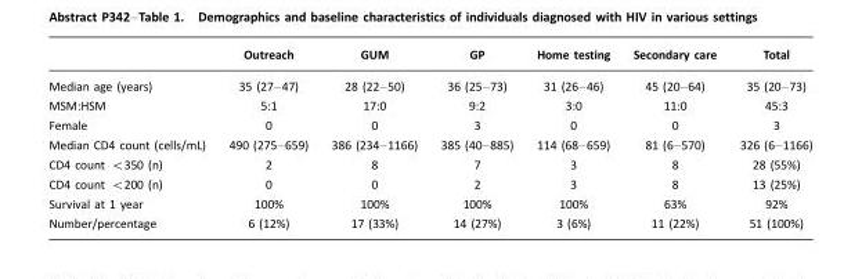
<table><thead><tr><td></td><td>Outreach</td><td>GUM</td><td>GP</td><td>Home testing</td><td>Secondary care</td><td>Total</td></tr></thead><tbody><tr><td>Median age (years)</td><td>35 (27–47)</td><td>28 (22–50)</td><td>36 (25–73)</td><td>31 (26–46)</td><td>45 (20–64)</td><td>35 (20–73)</td></tr><tr><td>MSM:HSM</td><td>5:1</td><td>17:0</td><td>9:2</td><td>3:0</td><td>11:0</td><td>45:3</td></tr><tr><td>Female</td><td>0</td><td>0</td><td>3</td><td>0</td><td>0</td><td>3</td></tr><tr><td>Median CD4 count (cells/mL)</td><td>490 (275–659)</td><td>386 (234–1166)</td><td>385 (40–885)</td><td>114 (68–659)</td><td>81 (6–570)</td><td>326 (6–1166)</td></tr><tr><td>CD4 count &lt;350 (n)</td><td>2</td><td>8</td><td>7</td><td>3</td><td>8</td><td>28 (55%)</td></tr><tr><td>CD4 count &lt;200 (n)</td><td>0</td><td>0</td><td>2</td><td>3</td><td>8</td><td>13 (25%)</td></tr><tr><td>Survival at 1 year</td><td>100%</td><td>100%</td><td>100%</td><td>100%</td><td>63%</td><td>92%</td></tr><tr><td>Number/percentage</td><td>6 (12%)</td><td>17 (33%)</td><td>14 (27%)</td><td>3 (6%)</td><td>11 (22%)</td><td>51 (100%)</td></tr></tbody></table>